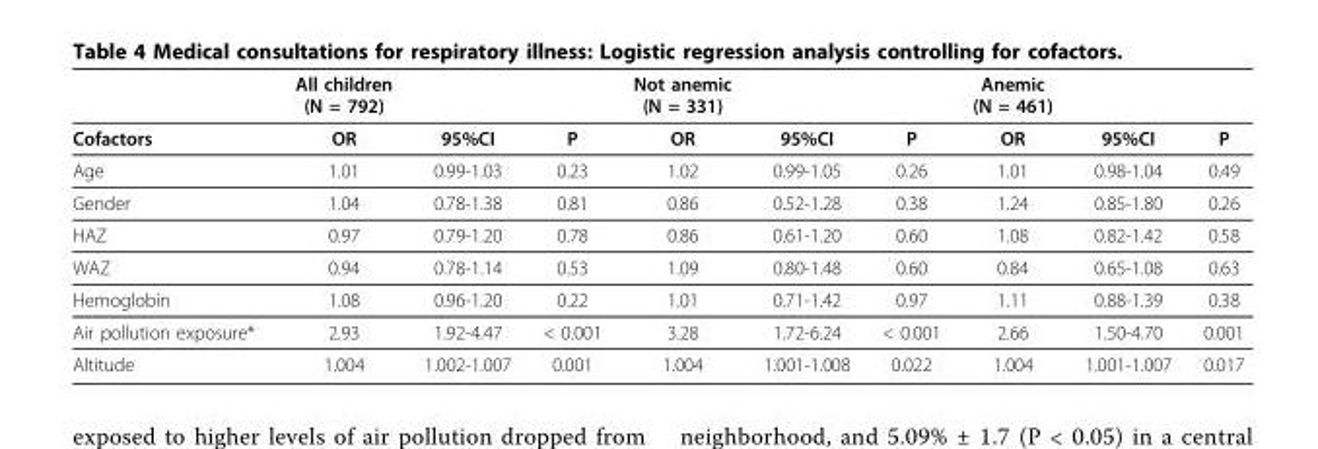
<table><thead><tr><td></td><td>All children (N = 792)</td><td></td><td></td><td>Not anemic (N = 331)</td><td></td><td></td><td>Anemic (N = 461)</td><td></td><td></td></tr></thead><tbody><tr><td>Cofactors</td><td>OR</td><td>95%CI</td><td>P</td><td>OR</td><td>95%CI</td><td>P</td><td>OR</td><td>95%CI</td><td>P</td></tr><tr><td>Age</td><td>1.01</td><td>0.99-1.03</td><td>0.23</td><td>1.02</td><td>0.99-1.05</td><td>0.26</td><td>1.01</td><td>0.98-1.04</td><td>0.49</td></tr><tr><td>Gender</td><td>1.04</td><td>0.78-1.38</td><td>0.81</td><td>0.86</td><td>0.52-1.28</td><td>0.38</td><td>1.24</td><td>0.85-1.80</td><td>0.26</td></tr><tr><td>HAZ</td><td>0.97</td><td>0.79-1.20</td><td>0.78</td><td>0.86</td><td>0.61-1.20</td><td>0.60</td><td>1.08</td><td>0.82-1.42</td><td>0.58</td></tr><tr><td>WAZ</td><td>0.94</td><td>0.78-1.14</td><td>0.53</td><td>1.09</td><td>0.80-1.48</td><td>0.60</td><td>0.84</td><td>0.65-1.08</td><td>0.63</td></tr><tr><td>Hemoglobin</td><td>1.08</td><td>0.96-1.20</td><td>0.22</td><td>1.01</td><td>0.71-1.42</td><td>0.97</td><td>1.11</td><td>0.88-1.39</td><td>0.38</td></tr><tr><td>Air pollution exposure*</td><td>2.93</td><td>1.92-4.47</td><td>&lt; 0.001</td><td>3.28</td><td>1.72-6.24</td><td>&lt; 0.001</td><td>2.66</td><td>1.50-4.70</td><td>0.001</td></tr><tr><td>Altitude</td><td>1.004</td><td>1.002-1.007</td><td>0.001</td><td>1.004</td><td>1.001-1.008</td><td>0.022</td><td>1.004</td><td>1.001-1.007</td><td>0.017</td></tr></tbody></table>